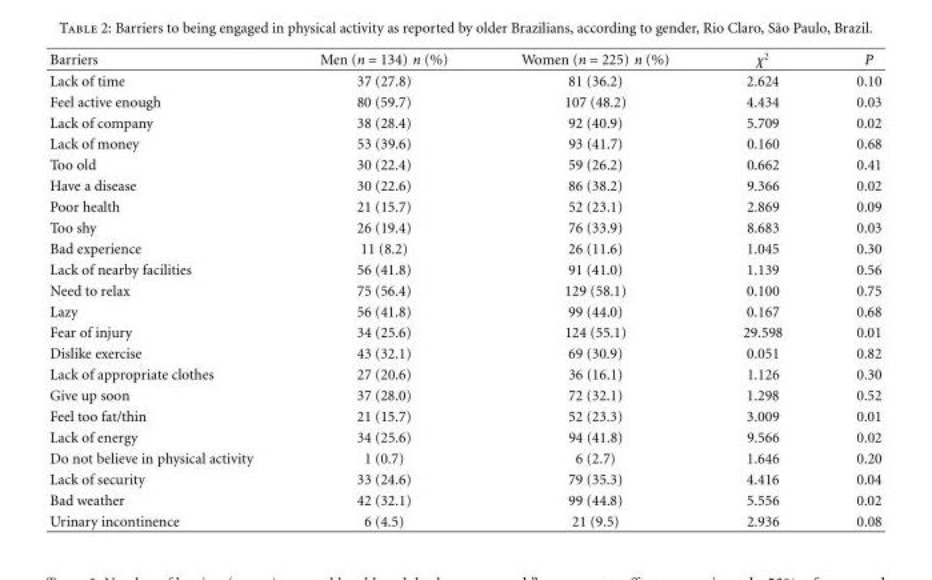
<table><thead><tr><td>Barriers</td><td>Men (n = 134) n (%)</td><td>Women (n = 225) n (%)</td><td>χ<sup>2</sup></td><td>P</td></tr></thead><tbody><tr><td>Lack of time</td><td>37 (27.8)</td><td>81 (36.2)</td><td>2.624</td><td>0.10</td></tr><tr><td>Feel active enough</td><td>80 (59.7)</td><td>107 (48.2)</td><td>4.434</td><td>0.03</td></tr><tr><td>Lack of company</td><td>38 (28.4)</td><td>92 (40.9)</td><td>5.709</td><td>0.02</td></tr><tr><td>Lack of money</td><td>53 (39.6)</td><td>93 (41.7)</td><td>0.160</td><td>0.68</td></tr><tr><td>Too old</td><td>30 (22.4)</td><td>59 (26.2)</td><td>0.662</td><td>0.41</td></tr><tr><td>Have a disease</td><td>30 (22.6)</td><td>86 (38.2)</td><td>9.366</td><td>0.02</td></tr><tr><td>Poor health</td><td>21 (15.7)</td><td>52 (23.1)</td><td>2.869</td><td>0.09</td></tr><tr><td>Too shy</td><td>26 (19.4)</td><td>76 (33.9)</td><td>8.683</td><td>0.03</td></tr><tr><td>Bad experience</td><td>11 (8.2)</td><td>26 (11.6)</td><td>1.045</td><td>0.30</td></tr><tr><td>Lack of nearby facilities</td><td>56 (41.8)</td><td>91 (41.0)</td><td>1.139</td><td>0.56</td></tr><tr><td>Need to relax</td><td>75 (56.4)</td><td>129 (58.1)</td><td>0.100</td><td>0.75</td></tr><tr><td>Lazy</td><td>56 (41.8)</td><td>99 (44.0)</td><td>0.167</td><td>0.68</td></tr><tr><td>Fear of injury</td><td>34 (25.6)</td><td>124 (55.1)</td><td>29.598</td><td>0.01</td></tr><tr><td>Dislike exercise</td><td>43 (32.1)</td><td>69 (30.9)</td><td>0.051</td><td>0.82</td></tr><tr><td>Lack of appropriate clothes</td><td>27 (20.6)</td><td>36 (16.1)</td><td>1.126</td><td>0.30</td></tr><tr><td>Give up soon</td><td>37 (28.0)</td><td>72 (32.1)</td><td>1.298</td><td>0.52</td></tr><tr><td>Feel too fat/thin</td><td>21 (15.7)</td><td>52 (23.3)</td><td>3.009</td><td>0.01</td></tr><tr><td>Lack of energy</td><td>34 (25.6)</td><td>94 (41.8)</td><td>9.566</td><td>0.02</td></tr><tr><td>Do not believe in physical activity</td><td>1 (0.7)</td><td>6 (2.7)</td><td>1.646</td><td>0.20</td></tr><tr><td>Lack of security</td><td>33 (24.6)</td><td>79 (35.3)</td><td>4.416</td><td>0.04</td></tr><tr><td>Bad weather</td><td>42 (32.1)</td><td>99 (44.8)</td><td>5.556</td><td>0.02</td></tr><tr><td>Urinary incontinence</td><td>6 (4.5)</td><td>21 (9.5)</td><td>2.936</td><td>0.08</td></tr></tbody></table>